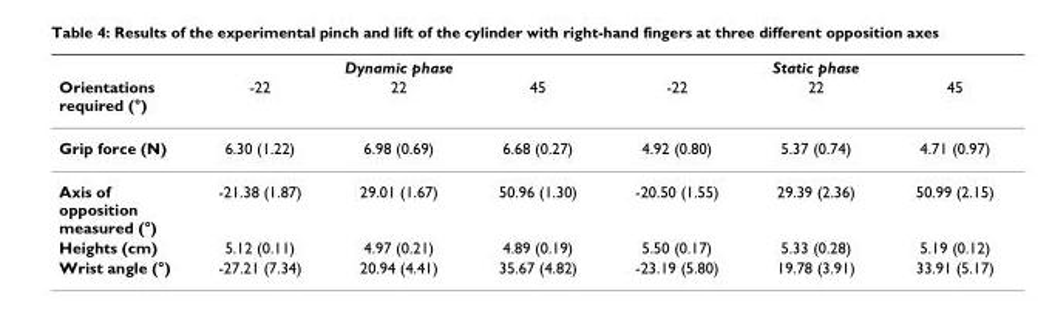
<table><thead><tr><td rowspan="2">Orientations required (°)</td><td colspan="3">Dynamic phase</td><td colspan="3">Static phase</td></tr><tr><td>-22</td><td>22</td><td>45</td><td>-22</td><td>22</td><td>45</td></tr></thead><tbody><tr><td>Grip force (N)</td><td>6.30 (1.22)</td><td>6.98 (0.69)</td><td>6.68 (0.27)</td><td>4.92 (0.80)</td><td>5.37 (0.74)</td><td>4.71 (0.97)</td></tr><tr><td>Axis of opposition measured (°)</td><td>-21.38 (1.87)</td><td>29.01 (1.67)</td><td>50.96 (1.30)</td><td>-20.50 (1.55)</td><td>29.39 (2.36)</td><td>50.99 (2.15)</td></tr><tr><td>Heights (cm)</td><td>5.12 (0.11)</td><td>4.97 (0.21)</td><td>4.89 (0.19)</td><td>5.50 (0.17)</td><td>5.33 (0.28)</td><td>5.19 (0.12)</td></tr><tr><td>Wrist angle (°)</td><td>-27.21 (7.34)</td><td>20.94 (4.41)</td><td>35.67 (4.82)</td><td>-23.19 (5.80)</td><td>19.78 (3.91)</td><td>33.91 (5.17)</td></tr></tbody></table>